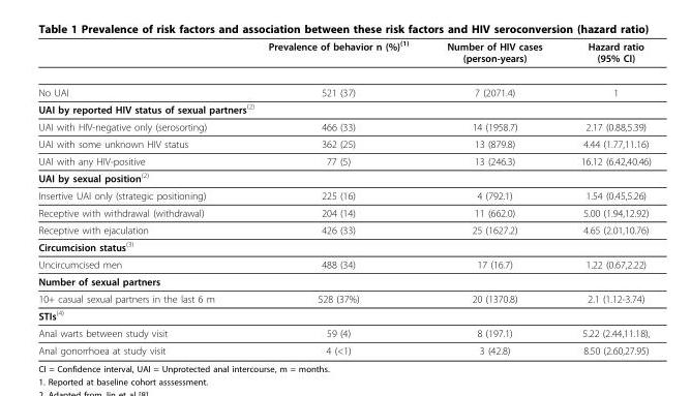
<table><thead><tr><td></td><td>Prevalence of behavior n (%)<sup>(1)</sup></td><td>Number of HIV cases (person-years)</td><td>Hazard ratio (95% CI)</td></tr></thead><tbody><tr><td>No UAI</td><td>521 (37)</td><td>7 (2071.4)</td><td>1</td></tr><tr><td colspan="4">UAI by reported HIV status of sexual partners<sup>(2)</sup></td></tr><tr><td>UAI with HIV-negative only (serosorting)</td><td>466 (33)</td><td>14 (1958.7)</td><td>2.17 (0.88,5.39)</td></tr><tr><td>UAI with some unknown HIV status</td><td>362 (25)</td><td>13 (879.8)</td><td>4.44 (1.77,11.16)</td></tr><tr><td>UAI with any HIV-positive</td><td>77 (5)</td><td>13 (246.3)</td><td>16.12 (6.42,40.46)</td></tr><tr><td colspan="4">UAI by sexual position<sup>(2)</sup></td></tr><tr><td>Insertive UAI only (strategic positioning)</td><td>225 (16)</td><td>4 (792.1)</td><td>1.54 (0.45,5.26)</td></tr><tr><td>Receptive with withdrawal (withdrawal)</td><td>204 (14)</td><td>11 (662.0)</td><td>5.00 (1.94,12.92)</td></tr><tr><td>Receptive with ejaculation</td><td>426 (33)</td><td>25 (1627.2)</td><td>4.65 (2.01,10.76)</td></tr><tr><td colspan="4">Circumcision status<sup>(3)</sup></td></tr><tr><td>Uncircumcised men</td><td>488 (34)</td><td>17 (16.7)</td><td>1.22 (0.67,2.22)</td></tr><tr><td colspan="4">Number of sexual partners</td></tr><tr><td>10+ casual sexual partners in the last 6 m</td><td>528 (37%)</td><td>20 (1370.8)</td><td>2.1 (1.12-3.74)</td></tr><tr><td colspan="4">STIs<sup>(4)</sup></td></tr><tr><td>Anal warts between study visit</td><td>59 (4)</td><td>8 (197.1)</td><td>5.22 (2.44,11.18),</td></tr><tr><td>Anal gonorrhoea at study visit</td><td>4 (&lt;1)</td><td>3 (42.8)</td><td>8.50 (2.60,27.95)</td></tr></tbody></table>